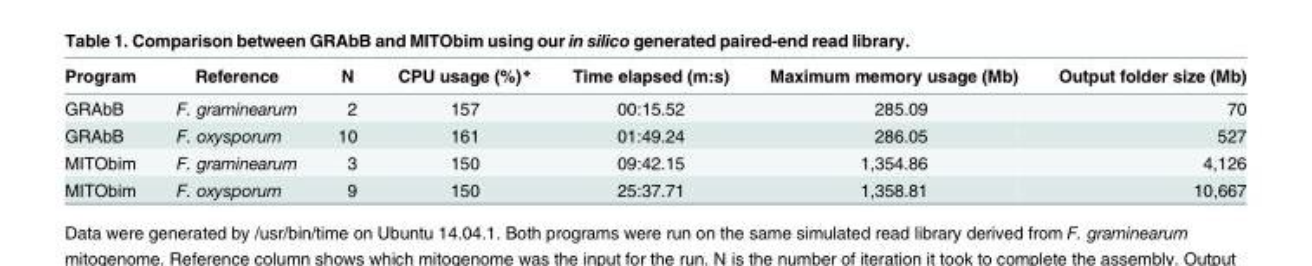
<table><thead><tr><td>Program</td><td>Reference</td><td>N</td><td>CPU usage (%)*</td><td>Time elapsed (m:s)</td><td>Maximum memory usage (Mb)</td><td>Output folder size (Mb)</td></tr></thead><tbody><tr><td>GRAbB</td><td>F. graminearum</td><td>2</td><td>157</td><td>00:15.52</td><td>285.09</td><td>70</td></tr><tr><td>GRAbB</td><td>F. oxysporum</td><td>10</td><td>161</td><td>01:49.24</td><td>286.05</td><td>527</td></tr><tr><td>MITObim</td><td>F. graminearum</td><td>3</td><td>150</td><td>09:42.15</td><td>1,354.86</td><td>4,126</td></tr><tr><td>MITObim</td><td>F. oxysporum</td><td>9</td><td>150</td><td>25:37.71</td><td>1,358.81</td><td>10,667</td></tr></tbody></table>